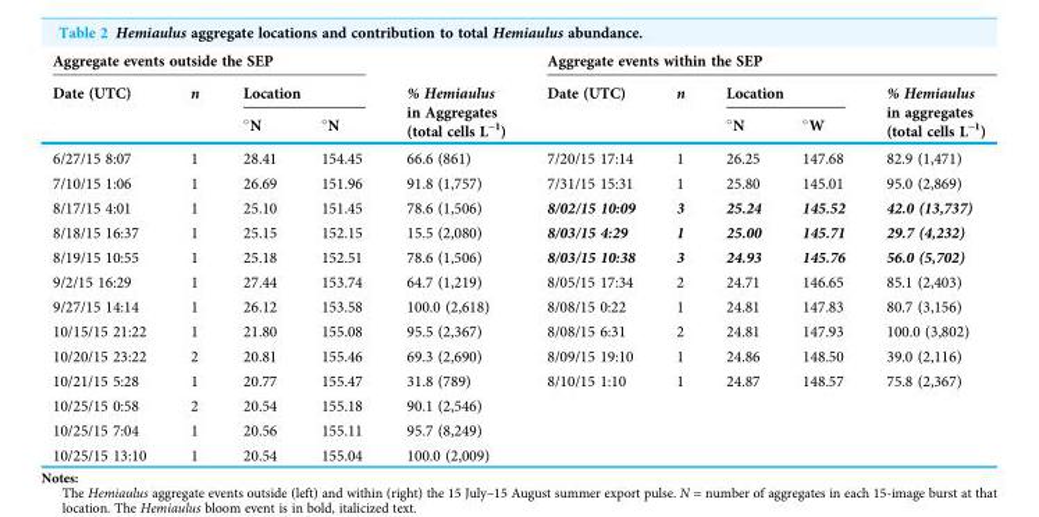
<table><thead><tr><td colspan="4">Aggregate events outside the SEP</td><td rowspan="3">% Hemiaulus in Aggregates (total cells L-1)</td><td colspan="5">Aggregate events within the SEP</td></tr><tr><td rowspan="2">Date (UTC)</td><td rowspan="2">n</td><td colspan="2">Location</td><td rowspan="2">Date (UTC)</td><td rowspan="2">n</td><td colspan="2">Location</td><td rowspan="2">% Hemiaulus in aggregates (total cells L<sup>-1</sup>)</td></tr><tr><td>°N</td><td>°N</td><td>°N</td><td>°W</td></tr></thead><tbody><tr><td>6/27/15 8:07</td><td>1</td><td>28.41</td><td>154.45</td><td>66.6 (861)</td><td>7/20/15 17:14</td><td>1</td><td>26.25</td><td>147.68</td><td>82.9 (1,471)</td></tr><tr><td>7/10/15 1:06</td><td>1</td><td>26.69</td><td>151.96</td><td>91.8 (1,757)</td><td>7/31/15 15:31</td><td>1</td><td>25.80</td><td>145.01</td><td>95.0 (2,869)</td></tr><tr><td>8/17/15 4:01</td><td>1</td><td>25.10</td><td>151.45</td><td>78.6 (1,506)</td><td>8/02/15 10:09</td><td>3</td><td>25.24</td><td>145.52</td><td>42.0 (13,737)</td></tr><tr><td>8/18/15 16:37</td><td>1</td><td>25.15</td><td>152.15</td><td>15.5 (2,080)</td><td>8/03/15 4:29</td><td>1</td><td>25.00</td><td>145.71</td><td>29.7 (4,232)</td></tr><tr><td>8/19/15 10:55</td><td>1</td><td>25.18</td><td>152.51</td><td>78.6 (1,506)</td><td>8/03/15 10:38</td><td>3</td><td>24.93</td><td>145.76</td><td>56.0 (5,702)</td></tr><tr><td>9/2/15 16:29</td><td>1</td><td>27.44</td><td>153.74</td><td>64.7 (1,219)</td><td>8/05/15 17:34</td><td>2</td><td>24.71</td><td>146.65</td><td>85.1 (2,403)</td></tr><tr><td>9/27/15 14:14</td><td>1</td><td>26.12</td><td>153.58</td><td>100.0 (2,618)</td><td>8/08/15 0:22</td><td>1</td><td>24.81</td><td>147.83</td><td>80.7 (3,156)</td></tr><tr><td>10/15/15 21:22</td><td>1</td><td>21.80</td><td>155.08</td><td>95.5 (2,367)</td><td>8/08/15 6:31</td><td>2</td><td>24.81</td><td>147.93</td><td>100.0 (3,802)</td></tr><tr><td>10/20/15 23:22</td><td>2</td><td>20.81</td><td>155.46</td><td>69.3 (2,690)</td><td>8/09/15 19:10</td><td>1</td><td>24.86</td><td>148.50</td><td>39.0 (2,116)</td></tr><tr><td>10/21/15 5:28</td><td>1</td><td>20.77</td><td>155.47</td><td>31.8 (789)</td><td>8/10/15 1:10</td><td>1</td><td>24.87</td><td>148.57</td><td>75.8 (2,367)</td></tr><tr><td>10/25/15 0:58</td><td>2</td><td>20.54</td><td>155.18</td><td>90.1 (2,546)</td><td></td><td></td><td></td><td></td><td></td></tr><tr><td>10/25/15 7:04</td><td>1</td><td>20.56</td><td>155.11</td><td>95.7 (8,249)</td><td></td><td></td><td></td><td></td><td></td></tr><tr><td>10/25/15 13:10</td><td>1</td><td>20.54</td><td>155.04</td><td>100.0 (2,009)</td><td></td><td></td><td></td><td></td><td></td></tr></tbody></table>